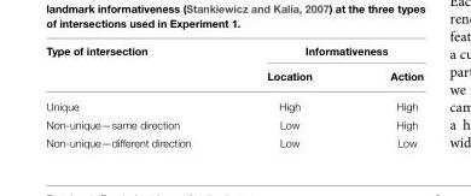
<table><thead><tr><td rowspan="2">Type of intersection</td><td colspan="2">Informativeness</td></tr><tr><td>Location</td><td>Action</td></tr></thead><tbody><tr><td>Unique</td><td>High</td><td>High</td></tr><tr><td>Non-unique—same direction</td><td>Low</td><td>High</td></tr><tr><td>Non-unique—different direction</td><td>Low</td><td>Low</td></tr></tbody></table>